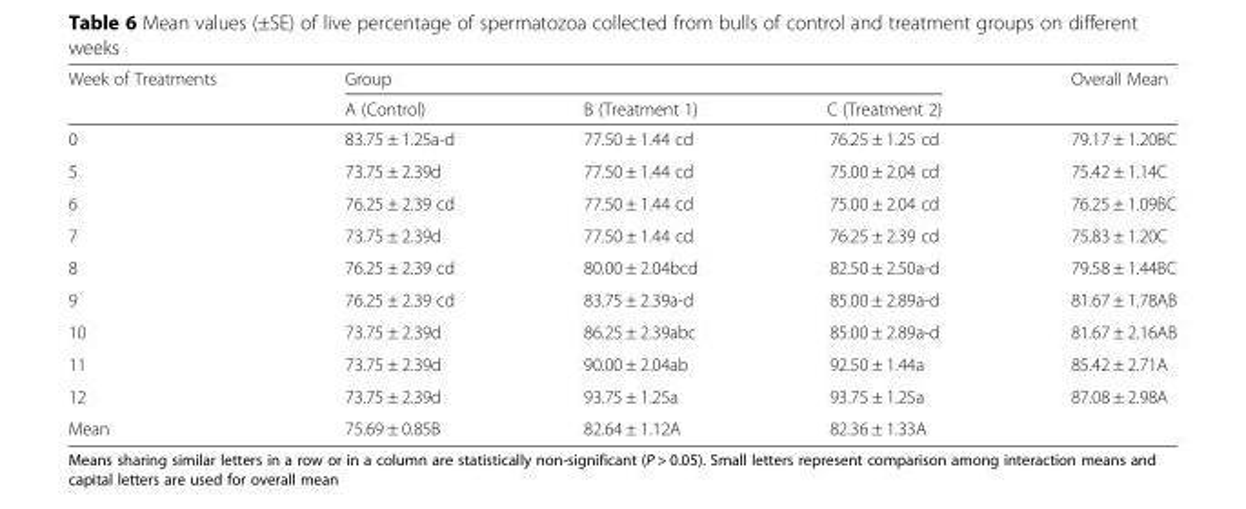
<table><thead><tr><td rowspan="2">Week of Treatments</td><td colspan="3">Group</td><td rowspan="2">Overall Mean</td></tr><tr><td>A (Control)</td><td>B (Treatment 1)</td><td>C (Treatment 2)</td></tr></thead><tbody><tr><td>0</td><td>83.75 ± 1.25a-d</td><td>77.50 ± 1.44 cd</td><td>76.25 ± 1.25 cd</td><td>79.17 ± 1.20BC</td></tr><tr><td>5</td><td>73.75 ± 2.39d</td><td>77.50 ± 1.44 cd</td><td>75.00 ± 2.04 cd</td><td>75.42 ± 1.14C</td></tr><tr><td>6</td><td>76.25 ± 2.39 cd</td><td>77.50 ± 1.44 cd</td><td>75.00 ± 2.04 cd</td><td>76.25 ± 1.09BC</td></tr><tr><td>7</td><td>73.75 ± 2.39d</td><td>77.50 ± 1.44 cd</td><td>76.25 ± 2.39 cd</td><td>75.83 ± 1.20C</td></tr><tr><td>8</td><td>76.25 ± 2.39 cd</td><td>80.00 ± 2.04bcd</td><td>82.50 ± 2.50a-d</td><td>79.58 ± 1.44BC</td></tr><tr><td>9</td><td>76.25 ± 2.39 cd</td><td>83.75 ± 2.39a-d</td><td>85.00 ± 2.89a-d</td><td>81.67 ± 1.78AB</td></tr><tr><td>10</td><td>73.75 ± 2.39d</td><td>86.25 ± 2.39abc</td><td>85.00 ± 2.89a-d</td><td>81.67 ± 2.16AB</td></tr><tr><td>11</td><td>73.75 ± 2.39d</td><td>90.00 ± 2.04ab</td><td>92.50 ± 1.44a</td><td>85.42 ± 2.71A</td></tr><tr><td>12</td><td>73.75 ± 2.39d</td><td>93.75 ± 1.25a</td><td>93.75 ± 1.25a</td><td>87.08 ± 2.98A</td></tr><tr><td>Mean</td><td>75.69 ± 0.85B</td><td>82.64 ± 1.12A</td><td>82.36 ± 1.33A</td><td></td></tr></tbody></table>